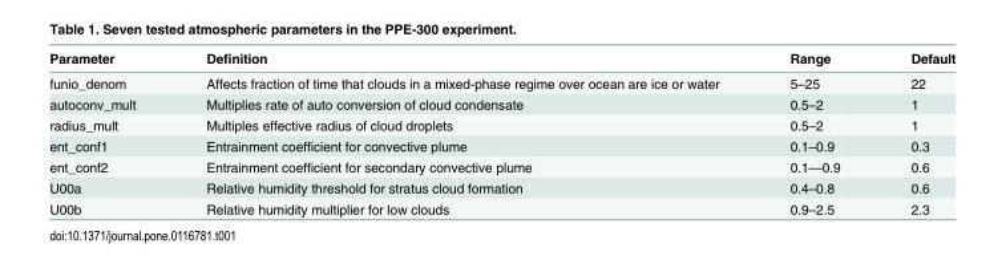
<table><thead><tr><td>Parameter</td><td>Definition</td><td>Range</td><td>Default</td></tr></thead><tbody><tr><td>funio_denom</td><td>Affects fraction of time that clouds in a mixed-phase regime over ocean are ice or water</td><td>5–25</td><td>22</td></tr><tr><td>autoconv_mult</td><td>Multiplies rate of auto conversion of cloud condensate</td><td>0.5–2</td><td>1</td></tr><tr><td>radius_mult</td><td>Multiples effective radius of cloud droplets</td><td>0.5–2</td><td>1</td></tr><tr><td>ent_conf1</td><td>Entrainment coefficient for convective plume</td><td>0.1–0.9</td><td>0.3</td></tr><tr><td>ent_conf2</td><td>Entrainment coefficient for secondary convective plume</td><td>0.1—0.9</td><td>0.6</td></tr><tr><td>U00a</td><td>Relative humidity threshold for stratus cloud formation</td><td>0.4–0.8</td><td>0.6</td></tr><tr><td>U00b</td><td>Relative humidity multiplier for low clouds</td><td>0.9–2.5</td><td>2.3</td></tr></tbody></table>